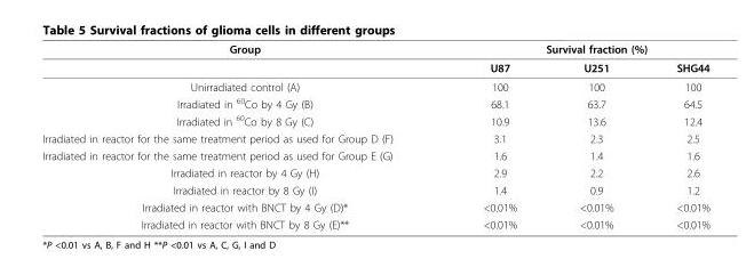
<table><thead><tr><td rowspan="2">Group</td><td colspan="3">Survival fraction (%)</td></tr><tr><td>U87</td><td>U251</td><td>SHG44</td></tr></thead><tbody><tr><td>Unirradiated control (A)</td><td>100</td><td>100</td><td>100</td></tr><tr><td>Irradiated in <sup>60</sup>Co by 4 Gy (B)</td><td>68.1</td><td>63.7</td><td>64.5</td></tr><tr><td>Irradiated in <sup>60</sup>Co by 8 Gy (C)</td><td>10.9</td><td>13.6</td><td>12.4</td></tr><tr><td>Irradiated in reactor for the same treatment period as used for Group D (F)</td><td>3.1</td><td>2.3</td><td>2.5</td></tr><tr><td>Irradiated in reactor for the same treatment period as used for Group E (G)</td><td>1.6</td><td>1.4</td><td>1.6</td></tr><tr><td>Irradiated in reactor by 4 Gy (H)</td><td>2.9</td><td>2.2</td><td>2.6</td></tr><tr><td>Irradiated in reactor by 8 Gy (I)</td><td>1.4</td><td>0.9</td><td>1.2</td></tr><tr><td>Irradiated in reactor with BNCT by 4 Gy (D)*</td><td>&lt;0.01%</td><td>&lt;0.01%</td><td>&lt;0.01%</td></tr><tr><td>Irradiated in reactor with BNCT by 8 Gy (E)**</td><td>&lt;0.01%</td><td>&lt;0.01%</td><td>&lt;0.01%</td></tr></tbody></table>